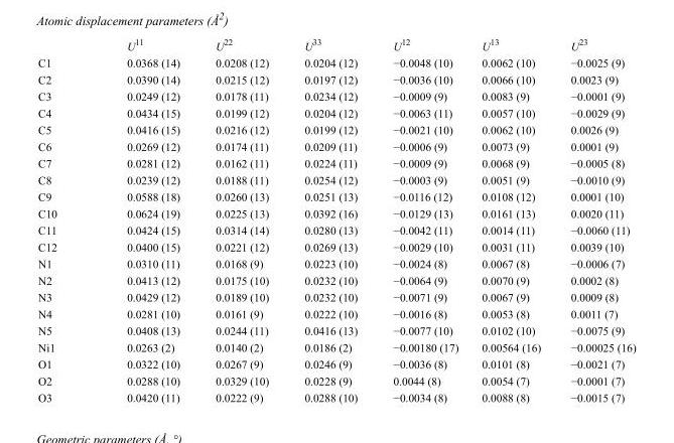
<table><thead><tr><td></td><td>U<sup>11</sup></td><td>U<sup>22</sup></td><td>U<sup>33</sup></td><td>U<sup>12</sup></td><td>U<sup>13</sup></td><td>U<sup>23</sup></td></tr></thead><tbody><tr><td>C1</td><td>0.0368 (14)</td><td>0.0208 (12)</td><td>0.0204 (12)</td><td>−0.0048 (10)</td><td>0.0062 (10)</td><td>−0.0025 (9)</td></tr><tr><td>C2</td><td>0.0390 (14)</td><td>0.0215 (12)</td><td>0.0197 (12)</td><td>−0.0036 (10)</td><td>0.0066 (10)</td><td>0.0023 (9)</td></tr><tr><td>C3</td><td>0.0249 (12)</td><td>0.0178 (11)</td><td>0.0234 (12)</td><td>−0.0009 (9)</td><td>0.0083 (9)</td><td>−0.0001 (9)</td></tr><tr><td>C4</td><td>0.0434 (15)</td><td>0.0199 (12)</td><td>0.0204 (12)</td><td>−0.0063 (11)</td><td>0.0057 (10)</td><td>−0.0029 (9)</td></tr><tr><td>C5</td><td>0.0416 (15)</td><td>0.0216 (12)</td><td>0.0199 (12)</td><td>−0.0021 (10)</td><td>0.0062 (10)</td><td>0.0026 (9)</td></tr><tr><td>C6</td><td>0.0269 (12)</td><td>0.0174 (11)</td><td>0.0209 (11)</td><td>−0.0006 (9)</td><td>0.0073 (9)</td><td>0.0001 (9)</td></tr><tr><td>C7</td><td>0.0281 (12)</td><td>0.0162 (11)</td><td>0.0224 (11)</td><td>−0.0009 (9)</td><td>0.0068 (9)</td><td>−0.0005 (8)</td></tr><tr><td>C8</td><td>0.0239 (12)</td><td>0.0188 (11)</td><td>0.0254 (12)</td><td>−0.0003 (9)</td><td>0.0051 (9)</td><td>−0.0010 (9)</td></tr><tr><td>C9</td><td>0.0588 (18)</td><td>0.0260 (13)</td><td>0.0251 (13)</td><td>−0.0116 (12)</td><td>0.0108 (12)</td><td>0.0001 (10)</td></tr><tr><td>C10</td><td>0.0624 (19)</td><td>0.0225 (13)</td><td>0.0392 (16)</td><td>−0.0129 (13)</td><td>0.0161 (13)</td><td>0.0020 (11)</td></tr><tr><td>C11</td><td>0.0424 (15)</td><td>0.0314 (14)</td><td>0.0280 (13)</td><td>−0.0042 (11)</td><td>0.0014 (11)</td><td>−0.0060 (11)</td></tr><tr><td>C12</td><td>0.0400 (15)</td><td>0.0221 (12)</td><td>0.0269 (13)</td><td>−0.0029 (10)</td><td>0.0031 (11)</td><td>0.0039 (10)</td></tr><tr><td>N1</td><td>0.0310 (11)</td><td>0.0168 (9)</td><td>0.0223 (10)</td><td>−0.0024 (8)</td><td>0.0067 (8)</td><td>−0.0006 (7)</td></tr><tr><td>N2</td><td>0.0413 (12)</td><td>0.0175 (10)</td><td>0.0232 (10)</td><td>−0.0064 (9)</td><td>0.0070 (9)</td><td>0.0002 (8)</td></tr><tr><td>N3</td><td>0.0429 (12)</td><td>0.0189 (10)</td><td>0.0232 (10)</td><td>−0.0071 (9)</td><td>0.0067 (9)</td><td>0.0009 (8)</td></tr><tr><td>N4</td><td>0.0281 (10)</td><td>0.0161 (9)</td><td>0.0222 (10)</td><td>−0.0016 (8)</td><td>0.0053 (8)</td><td>0.0011 (7)</td></tr><tr><td>N5</td><td>0.0408 (13)</td><td>0.0244 (11)</td><td>0.0416 (13)</td><td>−0.0077 (10)</td><td>0.0102 (10)</td><td>−0.0075 (9)</td></tr><tr><td>Ni1</td><td>0.0263 (2)</td><td>0.0140 (2)</td><td>0.0186 (2)</td><td>−0.00180 (17)</td><td>0.00564 (16)</td><td>−0.00025 (16)</td></tr><tr><td>O1</td><td>0.0322 (10)</td><td>0.0267 (9)</td><td>0.0246 (9)</td><td>−0.0036 (8)</td><td>0.0101 (8)</td><td>−0.0021 (7)</td></tr><tr><td>O2</td><td>0.0288 (10)</td><td>0.0329 (10)</td><td>0.0228 (9)</td><td>0.0044 (8)</td><td>0.0054 (7)</td><td>−0.0001 (7)</td></tr><tr><td>O3</td><td>0.0420 (11)</td><td>0.0222 (9)</td><td>0.0288 (10)</td><td>−0.0034 (8)</td><td>0.0088 (8)</td><td>−0.0015 (7)</td></tr></tbody></table>